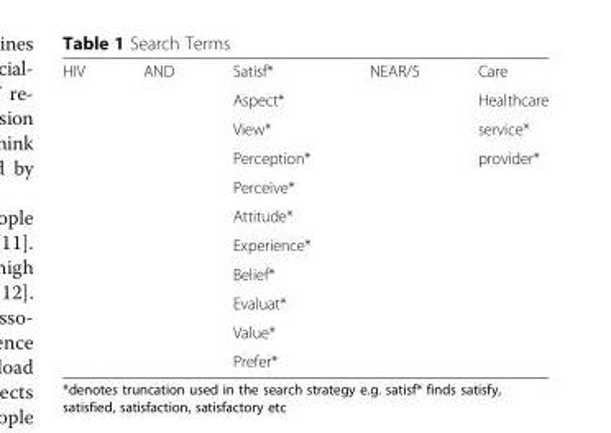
<table><tbody><tr><td rowspan="11">HIV</td><td>AND</td><td>Satisf*</td><td>NEAR/5</td><td>Care</td></tr><tr><td></td><td>Aspect*</td><td></td><td>Healthcare</td></tr><tr><td></td><td>View*</td><td></td><td>service*</td></tr><tr><td></td><td>Perception*</td><td></td><td>provider*</td></tr><tr><td></td><td>Perceive*</td><td></td><td></td></tr><tr><td></td><td>Attitude*</td><td></td><td></td></tr><tr><td></td><td>Experience*</td><td></td><td></td></tr><tr><td></td><td>Belief*</td><td></td><td></td></tr><tr><td></td><td>Evaluat*</td><td></td><td></td></tr><tr><td></td><td>Value*</td><td></td><td></td></tr><tr><td></td><td>Prefer*</td><td></td><td></td></tr></tbody></table>